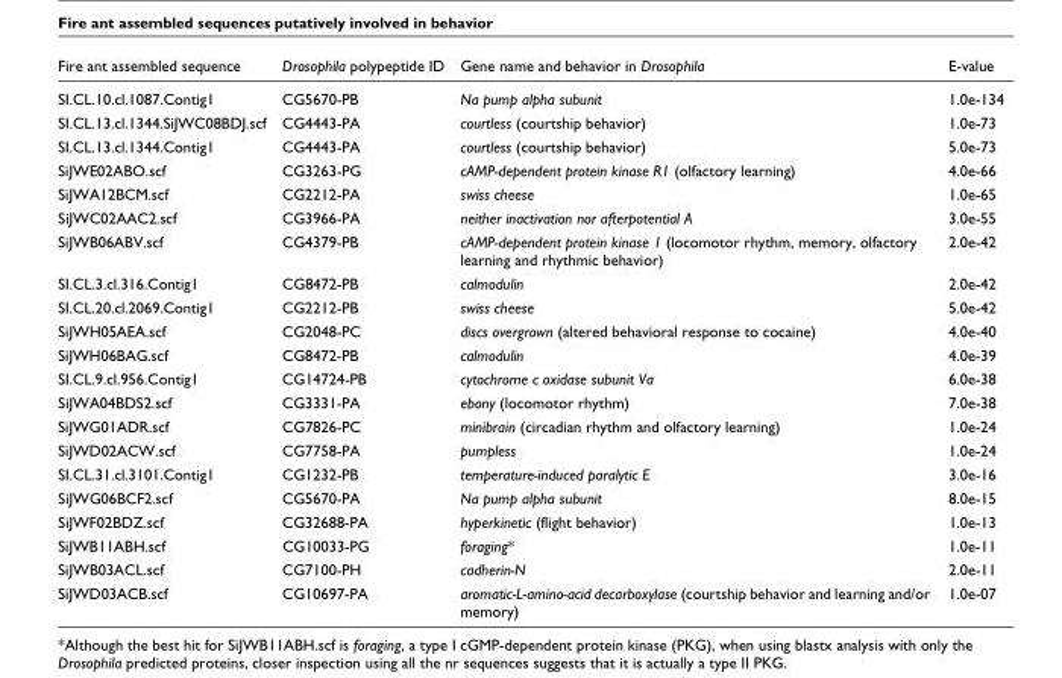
<table><thead><tr><td>Fire ant assembled sequence</td><td>Drosophila polypeptide ID</td><td>Gene name and behavior in Drosophila</td><td>E-value</td></tr></thead><tbody><tr><td>SI.CL.10.cl.1087.Contig1</td><td>CG5670-PB</td><td>Na pump alpha subunit</td><td>1.0e-134</td></tr><tr><td>SI.CL.13.cl.1344.SiJWC08BDJ.scf</td><td>CG4443-PA</td><td>courtless (courtship behavior)</td><td>1.0e-73</td></tr><tr><td>SI.CL.13.cl.1344.Contig1</td><td>CG4443-PA</td><td>courtless (courtship behavior)</td><td>5.0e-73</td></tr><tr><td>SiJWE02ABO.scf</td><td>CG3263-PG</td><td>cAMP-dependent protein kinase R1 (olfactory learning)</td><td>4.0e-66</td></tr><tr><td>SiJWA12BCM.scf</td><td>CG2212-PA</td><td>swiss cheese</td><td>1.0e-65</td></tr><tr><td>SiJWC02AAC2.scf</td><td>CG3966-PA</td><td>neither inactivation nor afterpotential A</td><td>3.0e-55</td></tr><tr><td>SiJWB06ABV.scf</td><td>CG4379-PB</td><td>cAMP-dependent protein kinase 1 (locomotor rhythm, memory, olfactory learning and rhythmic behavior)</td><td>2.0e-42</td></tr><tr><td>SI.CL.3.cl.316.Contig1</td><td>CG8472-PB</td><td>calmodulin</td><td>2.0e-42</td></tr><tr><td>SI.CL.20.cl.2069.Contig1</td><td>CG2212-PB</td><td>swiss cheese</td><td>5.0e-42</td></tr><tr><td>SiJWH05AEA.scf</td><td>CG2048-PC</td><td>discs overgrown (altered behavioral response to cocaine)</td><td>4.0e-40</td></tr><tr><td>SiJWH06BAG.scf</td><td>CG8472-PB</td><td>calmodulin</td><td>4.0e-39</td></tr><tr><td>SI.CL.9.cl.956.Contig1</td><td>CG14724-PB</td><td>cytochrome c oxidase subunit Va</td><td>6.0e-38</td></tr><tr><td>SiJWA04BDS2.scf</td><td>CG3331-PA</td><td>ebony (locomotor rhythm)</td><td>7.0e-38</td></tr><tr><td>SiJWG01ADR.scf</td><td>CG7826-PC</td><td>minibrain (circadian rhythm and olfactory learning)</td><td>1.0e-24</td></tr><tr><td>SiJWD02ACW.scf</td><td>CG7758-PA</td><td>pumpless</td><td>1.0e-24</td></tr><tr><td>SI.CL.31.cl.3101.Contig1</td><td>CG1232-PB</td><td>temperature-induced paralytic E</td><td>3.0e-16</td></tr><tr><td>SiJWG06BCF2.scf</td><td>CG5670-PA</td><td>Na pump alpha subunit</td><td>8.0e-15</td></tr><tr><td>SiJWF02BDZ.scf</td><td>CG32688-PA</td><td>hyperkinetic (flight behavior)</td><td>1.0e-13</td></tr><tr><td>SiJWB11ABH.scf</td><td>CG10033-PG</td><td>foraging*</td><td>1.0e-11</td></tr><tr><td>SiJWB03ACL.scf</td><td>CG7100-PH</td><td>cadherin-N</td><td>2.0e-11</td></tr><tr><td>SiJWD03ACB.scf</td><td>CG10697-PA</td><td>aromatic-L-amino-acid decarboxylase (courtship behavior and learning and/or memory)</td><td>1.0e-07</td></tr></tbody></table>